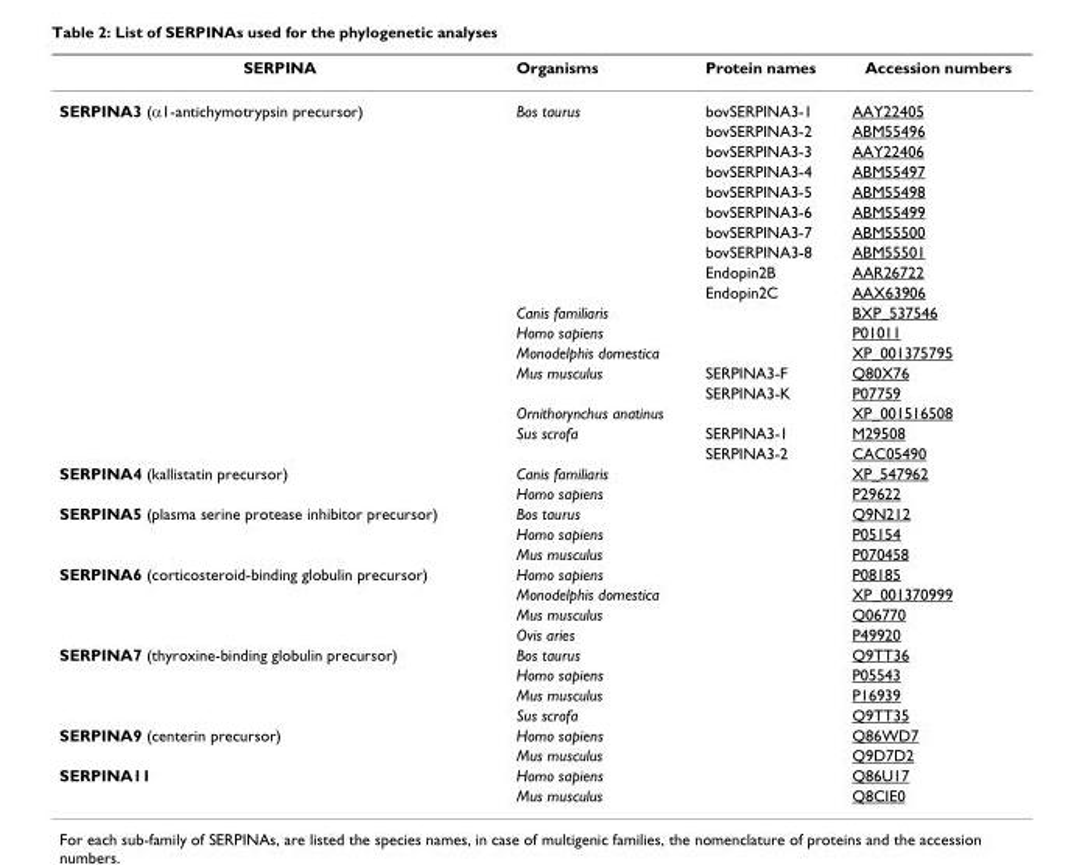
<table><thead><tr><td>SERPINA</td><td>Organisms</td><td>Protein names</td><td>Accession numbers</td></tr></thead><tbody><tr><td rowspan="18">SERPINA3 (α1-antichymotrypsin precursor)</td><td>Bos taurus</td><td>bovSERPINA3-1</td><td>AAY22405</td></tr><tr><td></td><td>bovSERPINA3-2</td><td>ABM55496</td></tr><tr><td></td><td>bovSERPINA3-3</td><td>AAY22406</td></tr><tr><td></td><td>bovSERPINA3-4</td><td>ABM55497</td></tr><tr><td></td><td>bovSERPINA3-5</td><td>ABM55498</td></tr><tr><td></td><td>bovSERPINA3-6</td><td>ABM55499</td></tr><tr><td></td><td>bovSERPINA3-7</td><td>ABM55500</td></tr><tr><td></td><td>bovSERPINA3-8</td><td>ABM55501</td></tr><tr><td></td><td>Endopin2B</td><td>AAR26722</td></tr><tr><td></td><td>Endopin2C</td><td>AAX63906</td></tr><tr><td>Canis familiaris</td><td></td><td>BXP_537546</td></tr><tr><td>Homo sapiens</td><td></td><td>P01011</td></tr><tr><td>Monodelphis domestica</td><td></td><td>XP_001375795</td></tr><tr><td>Mus musculus</td><td>SERPINA3-F</td><td>Q80X76</td></tr><tr><td></td><td>SERPINA3-K</td><td>P07759</td></tr><tr><td>Ornithorynchus anatinus</td><td></td><td>XP_001516508</td></tr><tr><td>Sus scrofa</td><td>SERPINA3-1</td><td>M29508</td></tr><tr><td></td><td>SERPINA3-2</td><td>CAC05490</td></tr><tr><td rowspan="2">SERPINA4 (kallistatin precursor)</td><td>Canis familiaris</td><td></td><td>XP_547962</td></tr><tr><td>Homo sapiens</td><td></td><td>P29622</td></tr><tr><td rowspan="3">SERPINA5 (plasma serine protease inhibitor precursor)</td><td>Bos taurus</td><td></td><td>Q9N212</td></tr><tr><td>Homo sapiens</td><td></td><td>P05154</td></tr><tr><td>Mus musculus</td><td></td><td>P070458</td></tr><tr><td rowspan="4">SERPINA6 (corticosteroid-binding globulin precursor)</td><td>Homo sapiens</td><td></td><td>P08185</td></tr><tr><td>Monodelphis domestica</td><td></td><td>XP_001370999</td></tr><tr><td>Mus musculus</td><td></td><td>Q06770</td></tr><tr><td>Ovis aries</td><td></td><td>P49920</td></tr><tr><td rowspan="4">SERPINA7 (thyroxine-binding globulin precursor)</td><td>Bos taurus</td><td></td><td>Q9TT36</td></tr><tr><td>Homo sapiens</td><td></td><td>P05543</td></tr><tr><td>Mus musculus</td><td></td><td>P16939</td></tr><tr><td>Sus scrofa</td><td></td><td>Q9TT35</td></tr><tr><td rowspan="2">SERPINA9 (centerin precursor)</td><td>Homo sapiens</td><td></td><td>Q86WD7</td></tr><tr><td>Mus musculus</td><td></td><td>Q9D7D2</td></tr><tr><td rowspan="2">SERPINA11</td><td>Homo sapiens</td><td></td><td>Q86U17</td></tr><tr><td>Mus musculus</td><td></td><td>Q8CIE0</td></tr></tbody></table>